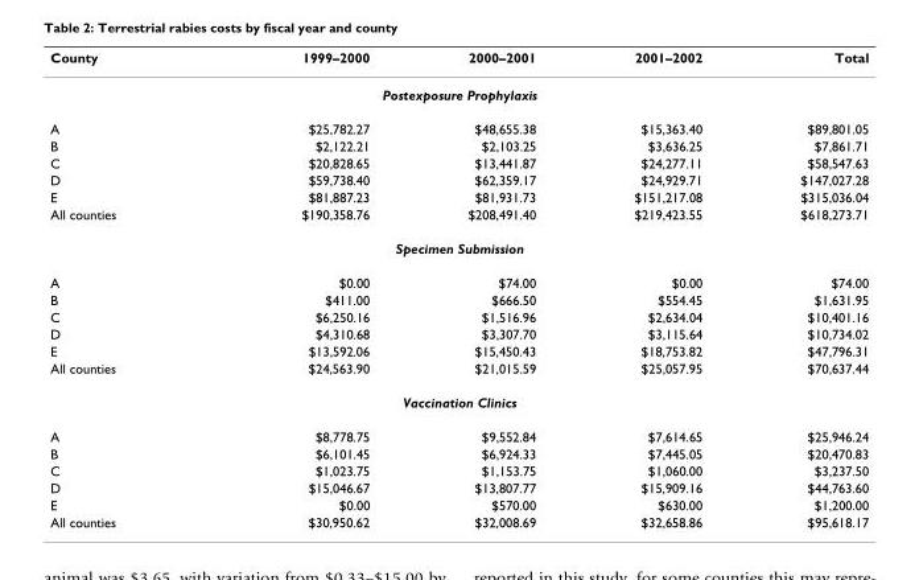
<table><thead><tr><td>County</td><td>1999–2000</td><td>2000–2001</td><td>2001–2002</td><td>Total</td></tr></thead><tbody><tr><td colspan="5">Postexposure Prophylaxis</td></tr><tr><td>A</td><td>$25,782.27</td><td>$48,655.38</td><td>$15,363.40</td><td>$89,801.05</td></tr><tr><td>B</td><td>$2,122.21</td><td>$2,103.25</td><td>$3,636.25</td><td>$7,861.71</td></tr><tr><td>C</td><td>$20,828.65</td><td>$13,441.87</td><td>$24,277.11</td><td>$58,547.63</td></tr><tr><td>D</td><td>$59,738.40</td><td>$62,359.17</td><td>$24,929.71</td><td>$147,027.28</td></tr><tr><td>E</td><td>$81,887.23</td><td>$81,931.73</td><td>$151,217.08</td><td>$315,036.04</td></tr><tr><td>All counties</td><td>$190,358.76</td><td>$208,491.40</td><td>$219,423.55</td><td>$618,273.71</td></tr><tr><td colspan="5">Specimen Submission</td></tr><tr><td>A</td><td>$0.00</td><td>$74.00</td><td>$0.00</td><td>$74.00</td></tr><tr><td>B</td><td>$411.00</td><td>$666.50</td><td>$554.45</td><td>$1,631.95</td></tr><tr><td>C</td><td>$6,250.16</td><td>$1,516.96</td><td>$2,634.04</td><td>$10,401.16</td></tr><tr><td>D</td><td>$4,310.68</td><td>$3,307.70</td><td>$3,115.64</td><td>$10,734.02</td></tr><tr><td>E</td><td>$13,592.06</td><td>$15,450.43</td><td>$18,753.82</td><td>$47,796.31</td></tr><tr><td>All counties</td><td>$24,563.90</td><td>$21,015.59</td><td>$25,057.95</td><td>$70,637.44</td></tr><tr><td colspan="5">Vaccination Clinics</td></tr><tr><td>A</td><td>$8,778.75</td><td>$9,552.84</td><td>$7,614.65</td><td>$25,946.24</td></tr><tr><td>B</td><td>$6,101.45</td><td>$6,924.33</td><td>$7,445.05</td><td>$20,470.83</td></tr><tr><td>C</td><td>$1,023.75</td><td>$1,153.75</td><td>$1,060.00</td><td>$3,237.50</td></tr><tr><td>D</td><td>$15,046.67</td><td>$13,807.77</td><td>$15,909.16</td><td>$44,763.60</td></tr><tr><td>E</td><td>$0.00</td><td>$570.00</td><td>$630.00</td><td>$1,200.00</td></tr><tr><td>All counties</td><td>$30,950.62</td><td>$32,008.69</td><td>$32,658.86</td><td>$95,618.17</td></tr></tbody></table>